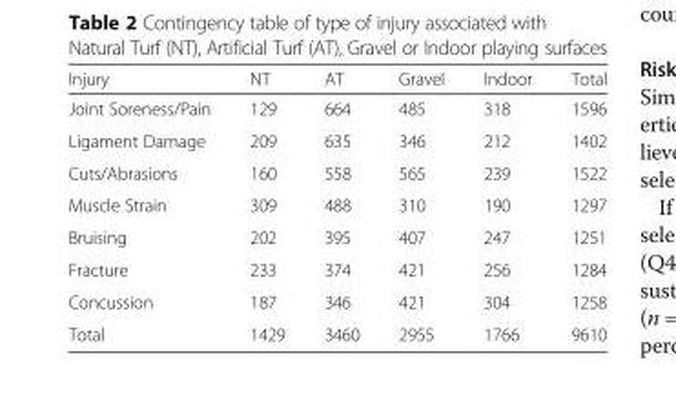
<table><thead><tr><td>Injury</td><td>NT</td><td>AT</td><td>Gravel</td><td>Indoor</td><td>Total</td></tr></thead><tbody><tr><td>Joint Soreness/Pain</td><td>129</td><td>664</td><td>485</td><td>318</td><td>1596</td></tr><tr><td>Ligament Damage</td><td>209</td><td>635</td><td>346</td><td>212</td><td>1402</td></tr><tr><td>Cuts/Abrasions</td><td>160</td><td>558</td><td>565</td><td>239</td><td>1522</td></tr><tr><td>Muscle Strain</td><td>309</td><td>488</td><td>310</td><td>190</td><td>1297</td></tr><tr><td>Bruising</td><td>202</td><td>395</td><td>407</td><td>247</td><td>1251</td></tr><tr><td>Fracture</td><td>233</td><td>374</td><td>421</td><td>256</td><td>1284</td></tr><tr><td>Concussion</td><td>187</td><td>346</td><td>421</td><td>304</td><td>1258</td></tr><tr><td>Total</td><td>1429</td><td>3460</td><td>2955</td><td>1766</td><td>9610</td></tr></tbody></table>